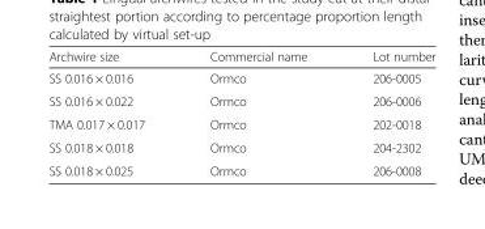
<table><thead><tr><td>Archwire size</td><td>Commercial name</td><td>Lot number</td></tr></thead><tbody><tr><td>SS 0.016 × 0.016</td><td>Ormco</td><td>206-0005</td></tr><tr><td>SS 0.016 × 0.022</td><td>Ormco</td><td>206-0006</td></tr><tr><td>TMA 0.017 × 0.017</td><td>Ormco</td><td>202-0018</td></tr><tr><td>SS 0.018 × 0.018</td><td>Ormco</td><td>204-2302</td></tr><tr><td>SS 0.018 × 0.025</td><td>Ormco</td><td>206-0008</td></tr></tbody></table>